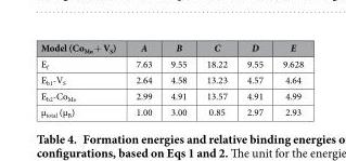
<table><thead><tr><td>Model (Co<sub>Mo</sub> + V<sub>S</sub>)</td><td>A</td><td>B</td><td>C</td><td>D</td><td>E</td></tr></thead><tbody><tr><td>E<sub>f</sub></td><td>7.63</td><td>9.55</td><td>18.22</td><td>9.55</td><td>9.628</td></tr><tr><td>E<sub>b1</sub>-V<sub>S</sub></td><td>2.64</td><td>4.58</td><td>13.23</td><td>4.57</td><td>4.64</td></tr><tr><td>E<sub>b2</sub>-Co<sub>Mo</sub></td><td>2.99</td><td>4.91</td><td>13.57</td><td>4.91</td><td>4.99</td></tr><tr><td>μ<sub>total</sub> (μ<sub>B</sub>)</td><td>1.00</td><td>3.00</td><td>0.85</td><td>2.97</td><td>2.93</td></tr></tbody></table>